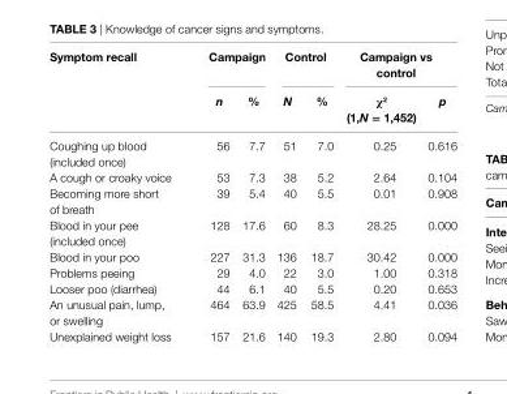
<table><thead><tr><td rowspan="2">Symptom recall</td><td colspan="2">Campaign</td><td colspan="2">Control</td><td colspan="2">Campaign vs control</td></tr><tr><td>n</td><td>%</td><td>N</td><td>%</td><td>χ<sup>2</sup> (1,N = 1,452)</td><td>p</td></tr></thead><tbody><tr><td>Coughing up blood (included once)</td><td>56</td><td>7.7</td><td>51</td><td>7.0</td><td>0.25</td><td>0.616</td></tr><tr><td>A cough or croaky voice</td><td>53</td><td>7.3</td><td>38</td><td>5.2</td><td>2.64</td><td>0.104</td></tr><tr><td>Becoming more short of breath</td><td>39</td><td>5.4</td><td>40</td><td>5.5</td><td>0.01</td><td>0.908</td></tr><tr><td>Blood in your pee (included once)</td><td>128</td><td>17.6</td><td>60</td><td>8.3</td><td>28.25</td><td>0.000</td></tr><tr><td>Blood in your poo</td><td>227</td><td>31.3</td><td>136</td><td>18.7</td><td>30.42</td><td>0.000</td></tr><tr><td>Problems peeing</td><td>29</td><td>4.0</td><td>22</td><td>3.0</td><td>1.00</td><td>0.318</td></tr><tr><td>Looser poo (diarrhea)</td><td>44</td><td>6.1</td><td>40</td><td>5.5</td><td>0.20</td><td>0.653</td></tr><tr><td>An unusual pain, lump, or swelling</td><td>464</td><td>63.9</td><td>425</td><td>58.5</td><td>4.41</td><td>0.036</td></tr><tr><td>Unexplained weight loss</td><td>157</td><td>21.6</td><td>140</td><td>19.3</td><td>2.80</td><td>0.094</td></tr></tbody></table>